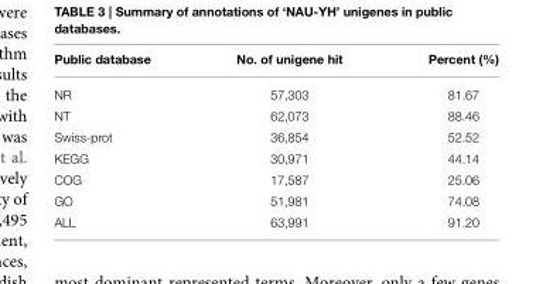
<table><thead><tr><td>Public database</td><td>No. of unigene hit</td><td>Percent (%)</td></tr></thead><tbody><tr><td>NR</td><td>57,303</td><td>81.67</td></tr><tr><td>NT</td><td>62,073</td><td>88.46</td></tr><tr><td>Swiss-prot</td><td>36,854</td><td>52.52</td></tr><tr><td>KEGG</td><td>30,971</td><td>44.14</td></tr><tr><td>COG</td><td>17,587</td><td>25.06</td></tr><tr><td>GO</td><td>51,981</td><td>74.08</td></tr><tr><td>ALL</td><td>63,991</td><td>91.20</td></tr></tbody></table>